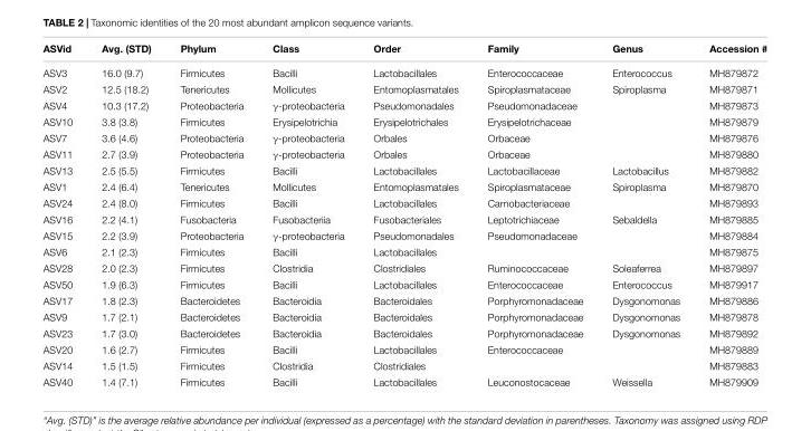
<table><thead><tr><td>ASVid</td><td>Avg. (STD)</td><td>Phylum</td><td>Class</td><td>Order</td><td>Family</td><td>Genus</td><td>Accession #</td></tr></thead><tbody><tr><td>ASV3</td><td>16.0 (9.7)</td><td>Firmicutes</td><td>Bacilli</td><td>Lactobacillales</td><td>Enterococcaceae</td><td>Enterococcus</td><td>MH879872</td></tr><tr><td>ASV2</td><td>12.5 (18.2)</td><td>Tenericutes</td><td>Mollicutes</td><td>Entomoplasmatales</td><td>Spiroplasmataceae</td><td>Spiroplasma</td><td>MH879871</td></tr><tr><td>ASV4</td><td>10.3 (17.2)</td><td>Proteobacteria</td><td>γ-proteobacteria</td><td>Pseudomonadales</td><td>Pseudomonadaceae</td><td></td><td>MH879873</td></tr><tr><td>ASV10</td><td>3.8 (3.8)</td><td>Firmicutes</td><td>Erysipelotrichia</td><td>Erysipelotrichales</td><td>Erysipelotrichaceae</td><td></td><td>MH879879</td></tr><tr><td>ASV7</td><td>3.6 (4.6)</td><td>Proteobacteria</td><td>γ-proteobacteria</td><td>Orbales</td><td>Orbaceae</td><td></td><td>MH879876</td></tr><tr><td>ASV11</td><td>2.7 (3.9)</td><td>Proteobacteria</td><td>γ-proteobacteria</td><td>Orbales</td><td>Orbaceae</td><td></td><td>MH879880</td></tr><tr><td>ASV13</td><td>2.5 (5.5)</td><td>Firmicutes</td><td>Bacilli</td><td>Lactobacillales</td><td>Lactobacillaceae</td><td>Lactobacillus</td><td>MH879882</td></tr><tr><td>ASV1</td><td>2.4 (6.4)</td><td>Tenericutes</td><td>Mollicutes</td><td>Entomoplasmatales</td><td>Spiroplasmataceae</td><td>Spiroplasma</td><td>MH879870</td></tr><tr><td>ASV24</td><td>2.4 (8.0)</td><td>Firmicutes</td><td>Bacilli</td><td>Lactobacillales</td><td>Carnobacteriaceae</td><td></td><td>MH879893</td></tr><tr><td>ASV16</td><td>2.2 (4.1)</td><td>Fusobacteria</td><td>Fusobacteriia</td><td>Fusobacteriales</td><td>Leptotrichiaceae</td><td>Sebaldella</td><td>MH879885</td></tr><tr><td>ASV15</td><td>2.2 (3.9)</td><td>Proteobacteria</td><td>γ-proteobacteria</td><td>Pseudomonadales</td><td>Pseudomonadaceae</td><td></td><td>MH879884</td></tr><tr><td>ASV6</td><td>2.1 (2.3)</td><td>Firmicutes</td><td>Bacilli</td><td>Lactobacillales</td><td></td><td></td><td>MH879875</td></tr><tr><td>ASV28</td><td>2.0 (2.3)</td><td>Firmicutes</td><td>Clostridia</td><td>Clostridiales</td><td>Ruminococcaceae</td><td>Soleaferrea</td><td>MH879897</td></tr><tr><td>ASV50</td><td>1.9 (6.3)</td><td>Firmicutes</td><td>Bacilli</td><td>Lactobacillales</td><td>Enterococcaceae</td><td>Enterococcus</td><td>MH879917</td></tr><tr><td>ASV17</td><td>1.8 (2.3)</td><td>Bacteroidetes</td><td>Bacteroidia</td><td>Bacteroidales</td><td>Porphyromonadaceae</td><td>Dysgonomonas</td><td>MH879886</td></tr><tr><td>ASV9</td><td>1.7 (2.1)</td><td>Bacteroidetes</td><td>Bacteroidia</td><td>Bacteroidales</td><td>Porphyromonadaceae</td><td>Dysgonomonas</td><td>MH879878</td></tr><tr><td>ASV23</td><td>1.7 (3.0)</td><td>Bacteroidetes</td><td>Bacteroidia</td><td>Bacteroidales</td><td>Porphyromonadaceae</td><td>Dysgonomonas</td><td>MH879892</td></tr><tr><td>ASV20</td><td>1.6 (2.7)</td><td>Firmicutes</td><td>Bacilli</td><td>Lactobacillales</td><td>Enterococcaceae</td><td></td><td>MH879889</td></tr><tr><td>ASV14</td><td>1.5 (1.5)</td><td>Firmicutes</td><td>Clostridia</td><td>Clostridiales</td><td></td><td></td><td>MH879883</td></tr><tr><td>ASV40</td><td>1.4 (7.1)</td><td>Firmicutes</td><td>Bacilli</td><td>Lactobacillales</td><td>Leuconostocaceae</td><td>Weissella</td><td>MH879909</td></tr></tbody></table>